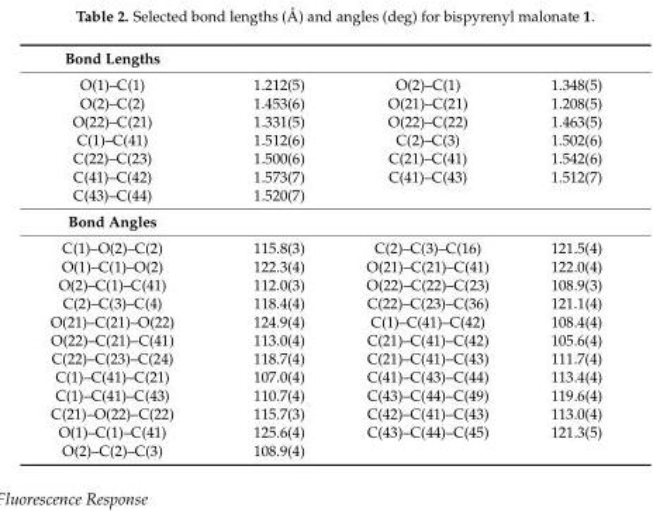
<table><tbody><tr><td colspan="4">Bond Lengths</td></tr><tr><td>O(1)–C(1)</td><td>1.212(5)</td><td>O(2)–C(1)</td><td>1.348(5)</td></tr><tr><td>O(2)–C(2)</td><td>1.453(6)</td><td>O(21)–C(21)</td><td>1.208(5)</td></tr><tr><td>O(22)–C(21)</td><td>1.331(5)</td><td>O(22)–C(22)</td><td>1.463(5)</td></tr><tr><td>C(1)–C(41)</td><td>1.512(6)</td><td>C(2)–C(3)</td><td>1.502(6)</td></tr><tr><td>C(22)–C(23)</td><td>1.500(6)</td><td>C(21)–C(41)</td><td>1.542(6)</td></tr><tr><td>C(41)–C(42)</td><td>1.573(7)</td><td>C(41)–C(43)</td><td>1.512(7)</td></tr><tr><td>C(43)–C(44)</td><td>1.520(7)</td><td></td><td></td></tr><tr><td colspan="4">Bond Angles</td></tr><tr><td>C(1)–O(2)–C(2)</td><td>115.8(3)</td><td>C(2)–C(3)–C(16)</td><td>121.5(4)</td></tr><tr><td>O(1)–C(1)–O(2)</td><td>122.3(4)</td><td>O(21)–C(21)–C(41)</td><td>122.0(4)</td></tr><tr><td>O(2)–C(1)–C(41)</td><td>112.0(3)</td><td>O(22)–C(22)–C(23)</td><td>108.9(3)</td></tr><tr><td>C(2)–C(3)–C(4)</td><td>118.4(4)</td><td>C(22)–C(23)–C(36)</td><td>121.1(4)</td></tr><tr><td>O(21)–C(21)–O(22)</td><td>124.9(4)</td><td>C(1)–C(41)–C(42)</td><td>108.4(4)</td></tr><tr><td>O(22)–C(21)–C(41)</td><td>113.0(4)</td><td>C(21)–C(41)–C(42)</td><td>105.6(4)</td></tr><tr><td>C(22)–C(23)–C(24)</td><td>118.7(4)</td><td>C(21)–C(41)–C(43)</td><td>111.7(4)</td></tr><tr><td>C(1)–C(41)–C(21)</td><td>107.0(4)</td><td>C(41)–C(43)–C(44)</td><td>113.4(4)</td></tr><tr><td>C(1)–C(41)–C(43)</td><td>110.7(4)</td><td>C(43)–C(44)–C(49)</td><td>119.6(4)</td></tr><tr><td>C(21)–O(22)–C(22)</td><td>115.7(3)</td><td>C(42)–C(41)–C(43)</td><td>113.0(4)</td></tr><tr><td>O(1)–C(1)–C(41)</td><td>125.6(4)</td><td>C(43)–C(44)–C(45)</td><td>121.3(5)</td></tr><tr><td>O(2)–C(2)–C(3)</td><td>108.9(4)</td><td></td><td></td></tr></tbody></table>